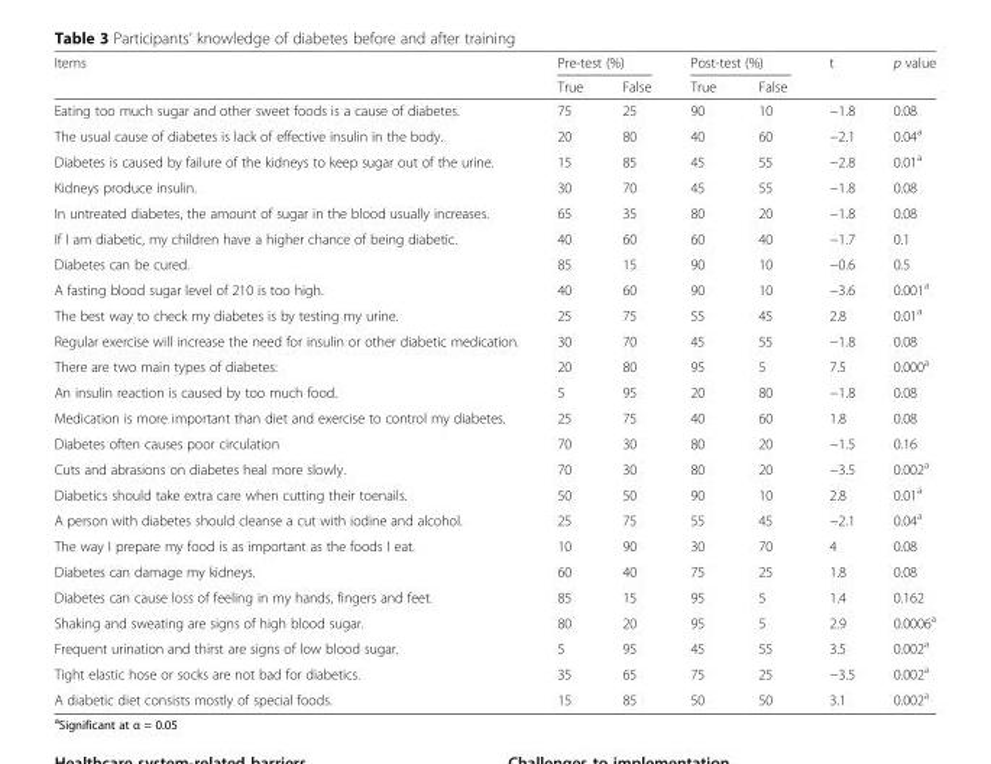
<table><thead><tr><td rowspan="2">Items</td><td colspan="2">Pre-test (%)</td><td colspan="2">Post-test (%)</td><td rowspan="2">t</td><td rowspan="2">p value</td></tr><tr><td>True</td><td>False</td><td>True</td><td>False</td></tr></thead><tbody><tr><td>Eating too much sugar and other sweet foods is a cause of diabetes.</td><td>75</td><td>25</td><td>90</td><td>10</td><td>−1.8</td><td>0.08</td></tr><tr><td>The usual cause of diabetes is lack of effective insulin in the body.</td><td>20</td><td>80</td><td>40</td><td>60</td><td>−2.1</td><td>0.04<sup>a</sup></td></tr><tr><td>Diabetes is caused by failure of the kidneys to keep sugar out of the urine.</td><td>15</td><td>85</td><td>45</td><td>55</td><td>−2.8</td><td>0.01<sup>a</sup></td></tr><tr><td>Kidneys produce insulin.</td><td>30</td><td>70</td><td>45</td><td>55</td><td>−1.8</td><td>0.08</td></tr><tr><td>In untreated diabetes, the amount of sugar in the blood usually increases.</td><td>65</td><td>35</td><td>80</td><td>20</td><td>−1.8</td><td>0.08</td></tr><tr><td>If I am diabetic, my children have a higher chance of being diabetic.</td><td>40</td><td>60</td><td>60</td><td>40</td><td>−1.7</td><td>0.1</td></tr><tr><td>Diabetes can be cured.</td><td>85</td><td>15</td><td>90</td><td>10</td><td>−0.6</td><td>0.5</td></tr><tr><td>A fasting blood sugar level of 210 is too high.</td><td>40</td><td>60</td><td>90</td><td>10</td><td>−3.6</td><td>0.001<sup>a</sup></td></tr><tr><td>The best way to check my diabetes is by testing my urine.</td><td>25</td><td>75</td><td>55</td><td>45</td><td>2.8</td><td>0.01<sup>a</sup></td></tr><tr><td>Regular exercise will increase the need for insulin or other diabetic medication.</td><td>30</td><td>70</td><td>45</td><td>55</td><td>−1.8</td><td>0.08</td></tr><tr><td>There are two main types of diabetes:</td><td>20</td><td>80</td><td>95</td><td>5</td><td>7.5</td><td>0.000<sup>a</sup></td></tr><tr><td>An insulin reaction is caused by too much food.</td><td>5</td><td>95</td><td>20</td><td>80</td><td>−1.8</td><td>0.08</td></tr><tr><td>Medication is more important than diet and exercise to control my diabetes.</td><td>25</td><td>75</td><td>40</td><td>60</td><td>1.8</td><td>0.08</td></tr><tr><td>Diabetes often causes poor circulation</td><td>70</td><td>30</td><td>80</td><td>20</td><td>−1.5</td><td>0.16</td></tr><tr><td>Cuts and abrasions on diabetes heal more slowly.</td><td>70</td><td>30</td><td>80</td><td>20</td><td>−3.5</td><td>0.002<sup>a</sup></td></tr><tr><td>Diabetics should take extra care when cutting their toenails.</td><td>50</td><td>50</td><td>90</td><td>10</td><td>2.8</td><td>0.01<sup>a</sup></td></tr><tr><td>A person with diabetes should cleanse a cut with iodine and alcohol.</td><td>25</td><td>75</td><td>55</td><td>45</td><td>−2.1</td><td>0.04<sup>a</sup></td></tr><tr><td>The way I prepare my food is as important as the foods I eat.</td><td>10</td><td>90</td><td>30</td><td>70</td><td>4</td><td>0.08</td></tr><tr><td>Diabetes can damage my kidneys.</td><td>60</td><td>40</td><td>75</td><td>25</td><td>1.8</td><td>0.08</td></tr><tr><td>Diabetes can cause loss of feeling in my hands, fingers and feet.</td><td>85</td><td>15</td><td>95</td><td>5</td><td>1.4</td><td>0.162</td></tr><tr><td>Shaking and sweating are signs of high blood sugar.</td><td>80</td><td>20</td><td>95</td><td>5</td><td>2.9</td><td>0.0006<sup>a</sup></td></tr><tr><td>Frequent urination and thirst are signs of low blood sugar.</td><td>5</td><td>95</td><td>45</td><td>55</td><td>3.5</td><td>0.002<sup>a</sup></td></tr><tr><td>Tight elastic hose or socks are not bad for diabetics.</td><td>35</td><td>65</td><td>75</td><td>25</td><td>−3.5</td><td>0.002<sup>a</sup></td></tr><tr><td>A diabetic diet consists mostly of special foods.</td><td>15</td><td>85</td><td>50</td><td>50</td><td>3.1</td><td>0.002<sup>a</sup></td></tr></tbody></table>